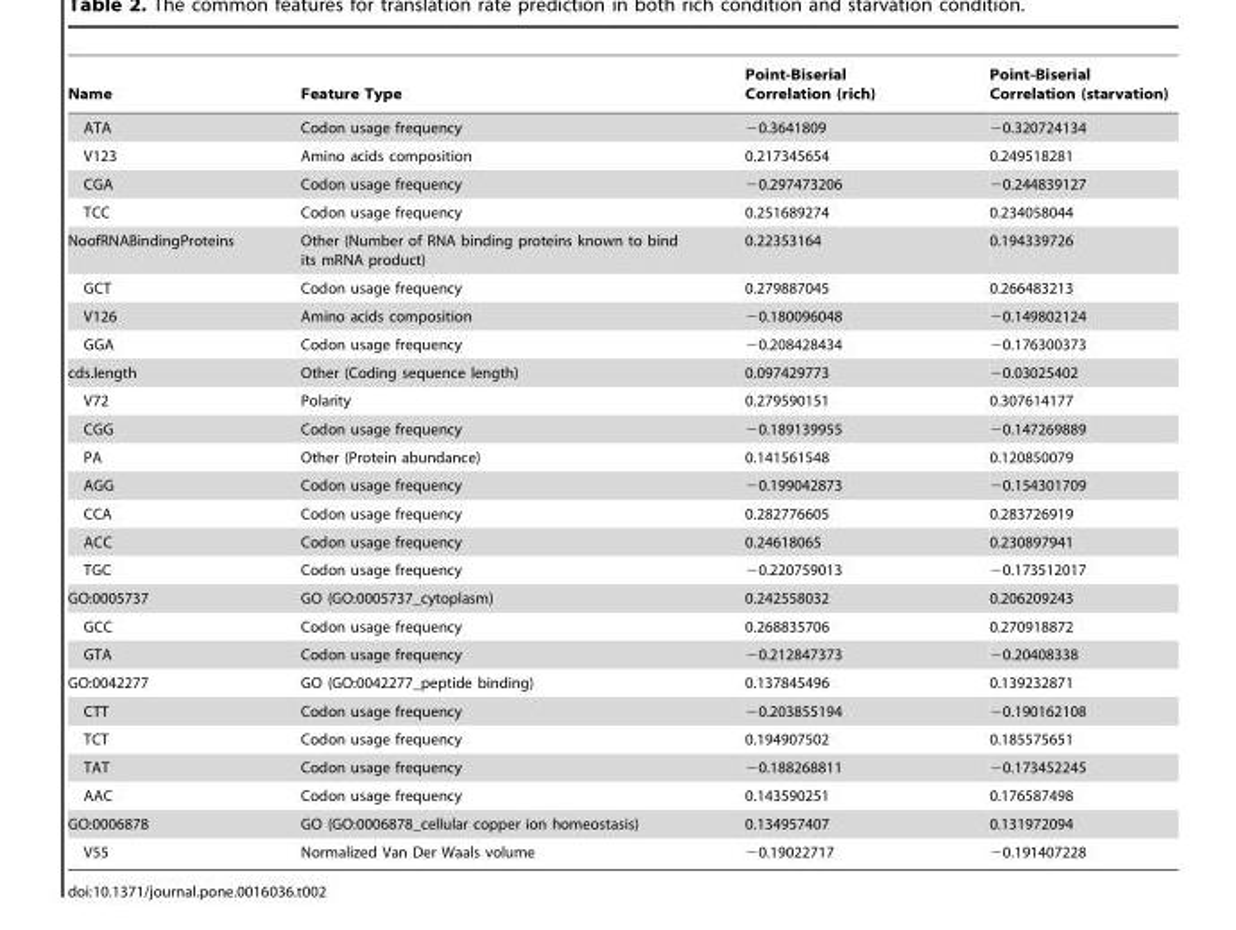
<table><thead><tr><td>Name</td><td>Feature Type</td><td>Point-Biserial Correlation (rich)</td><td>Point-Biserial Correlation (starvation)</td></tr></thead><tbody><tr><td>ATA</td><td>Codon usage frequency</td><td>−0.3641809</td><td>−0.320724134</td></tr><tr><td>V123</td><td>Amino acids composition</td><td>0.217345654</td><td>0.249518281</td></tr><tr><td>CGA</td><td>Codon usage frequency</td><td>−0.297473206</td><td>−0.244839127</td></tr><tr><td>TCC</td><td>Codon usage frequency</td><td>0.251689274</td><td>0.234058044</td></tr><tr><td>NoofRNABindingProteins</td><td>Other (Number of RNA binding proteins known to bind its mRNA product)</td><td>0.22353164</td><td>0.194339726</td></tr><tr><td>GCT</td><td>Codon usage frequency</td><td>0.279887045</td><td>0.266483213</td></tr><tr><td>V126</td><td>Amino acids composition</td><td>−0.180096048</td><td>−0.149802124</td></tr><tr><td>GGA</td><td>Codon usage frequency</td><td>−0.208428434</td><td>−0.176300373</td></tr><tr><td>cds.length</td><td>Other (Coding sequence length)</td><td>0.097429773</td><td>−0.03025402</td></tr><tr><td>V72</td><td>Polarity</td><td>0.279590151</td><td>0.307614177</td></tr><tr><td>CGG</td><td>Codon usage frequency</td><td>−0.189139955</td><td>−0.147269889</td></tr><tr><td>PA</td><td>Other (Protein abundance)</td><td>0.141561548</td><td>0.120850079</td></tr><tr><td>AGG</td><td>Codon usage frequency</td><td>−0.199042873</td><td>−0.154301709</td></tr><tr><td>CCA</td><td>Codon usage frequency</td><td>0.282776605</td><td>0.283726919</td></tr><tr><td>ACC</td><td>Codon usage frequency</td><td>0.24618065</td><td>0.230897941</td></tr><tr><td>TGC</td><td>Codon usage frequency</td><td>−0.220759013</td><td>−0.173512017</td></tr><tr><td>GO:0005737</td><td>GO (GO:0005737_cytoplasm)</td><td>0.242558032</td><td>0.206209243</td></tr><tr><td>GCC</td><td>Codon usage frequency</td><td>0.268835706</td><td>0.270918872</td></tr><tr><td>GTA</td><td>Codon usage frequency</td><td>−0.212847373</td><td>−0.20408338</td></tr><tr><td>GO:0042277</td><td>GO (GO:0042277_peptide binding)</td><td>0.137845496</td><td>0.139232871</td></tr><tr><td>CTT</td><td>Codon usage frequency</td><td>−0.203855194</td><td>−0.190162108</td></tr><tr><td>TCT</td><td>Codon usage frequency</td><td>0.194907502</td><td>0.185575651</td></tr><tr><td>TAT</td><td>Codon usage frequency</td><td>−0.188268811</td><td>−0.173452245</td></tr><tr><td>AAC</td><td>Codon usage frequency</td><td>0.143590251</td><td>0.176587498</td></tr><tr><td>GO:0006878</td><td>GO (GO:0006878_cellular copper ion homeostasis)</td><td>0.134957407</td><td>0.131972094</td></tr><tr><td>V55</td><td>Normalized Van Der Waals volume</td><td>−0.19022717</td><td>−0.191407228</td></tr></tbody></table>